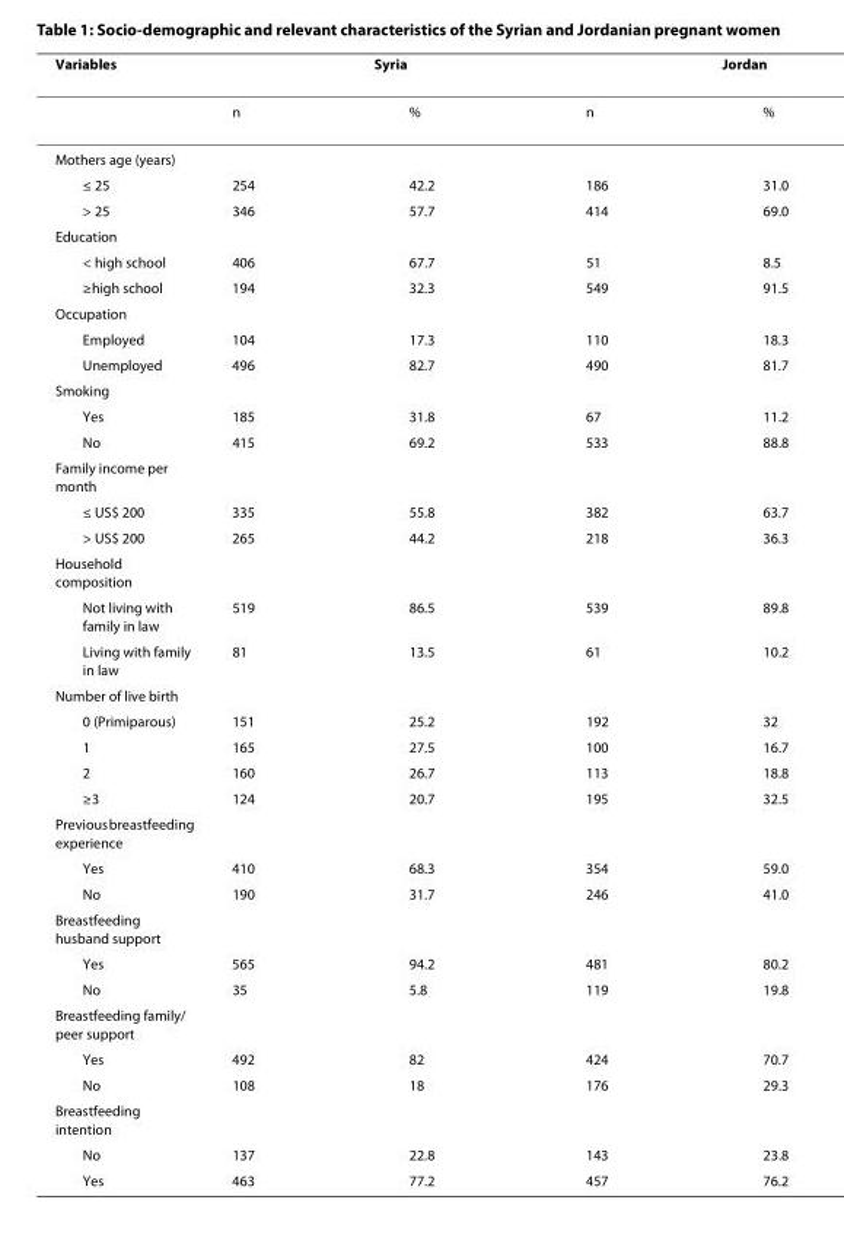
<table><thead><tr><td rowspan="2">Variables</td><td colspan="2">Syria</td><td colspan="2">Jordan</td></tr><tr><td>n</td><td>%</td><td>n</td><td>%</td></tr></thead><tbody><tr><td colspan="5">Mothers age (years)</td></tr><tr><td>≤ 25</td><td>254</td><td>42.2</td><td>186</td><td>31.0</td></tr><tr><td>&gt; 25</td><td>346</td><td>57.7</td><td>414</td><td>69.0</td></tr><tr><td colspan="5">Education</td></tr><tr><td>&lt; high school</td><td>406</td><td>67.7</td><td>51</td><td>8.5</td></tr><tr><td>≥high school</td><td>194</td><td>32.3</td><td>549</td><td>91.5</td></tr><tr><td colspan="5">Occupation</td></tr><tr><td>Employed</td><td>104</td><td>17.3</td><td>110</td><td>18.3</td></tr><tr><td>Unemployed</td><td>496</td><td>82.7</td><td>490</td><td>81.7</td></tr><tr><td colspan="5">Smoking</td></tr><tr><td>Yes</td><td>185</td><td>31.8</td><td>67</td><td>11.2</td></tr><tr><td>No</td><td>415</td><td>69.2</td><td>533</td><td>88.8</td></tr><tr><td colspan="5">Family income per month</td></tr><tr><td>≤ US$ 200</td><td>335</td><td>55.8</td><td>382</td><td>63.7</td></tr><tr><td>&gt; US$ 200</td><td>265</td><td>44.2</td><td>218</td><td>36.3</td></tr><tr><td colspan="5">Household composition</td></tr><tr><td>Not living with family in law</td><td>519</td><td>86.5</td><td>539</td><td>89.8</td></tr><tr><td>Living with family in law</td><td>81</td><td>13.5</td><td>61</td><td>10.2</td></tr><tr><td colspan="5">Number of live birth</td></tr><tr><td>0 (Primiparous)</td><td>151</td><td>25.2</td><td>192</td><td>32</td></tr><tr><td>1</td><td>165</td><td>27.5</td><td>100</td><td>16.7</td></tr><tr><td>2</td><td>160</td><td>26.7</td><td>113</td><td>18.8</td></tr><tr><td>≥3</td><td>124</td><td>20.7</td><td>195</td><td>32.5</td></tr><tr><td colspan="5">Previous breastfeeding experience</td></tr><tr><td>Yes</td><td>410</td><td>68.3</td><td>354</td><td>59.0</td></tr><tr><td>No</td><td>190</td><td>31.7</td><td>246</td><td>41.0</td></tr><tr><td colspan="5">Breastfeeding husband support</td></tr><tr><td>Yes</td><td>565</td><td>94.2</td><td>481</td><td>80.2</td></tr><tr><td>No</td><td>35</td><td>5.8</td><td>119</td><td>19.8</td></tr><tr><td colspan="5">Breastfeeding family/ peer support</td></tr><tr><td>Yes</td><td>492</td><td>82</td><td>424</td><td>70.7</td></tr><tr><td>No</td><td>108</td><td>18</td><td>176</td><td>29.3</td></tr><tr><td colspan="5">Breastfeeding intention</td></tr><tr><td>No</td><td>137</td><td>22.8</td><td>143</td><td>23.8</td></tr><tr><td>Yes</td><td>463</td><td>77.2</td><td>457</td><td>76.2</td></tr></tbody></table>